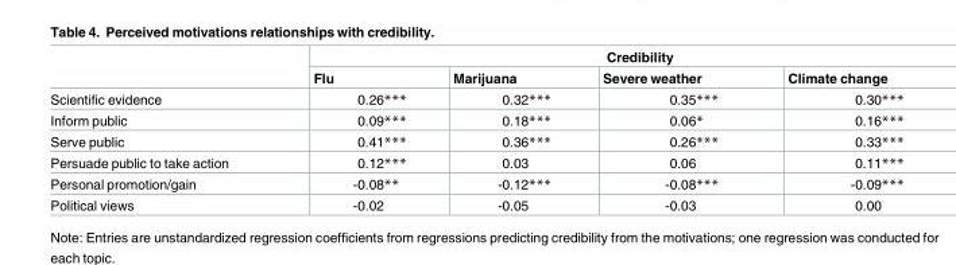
<table><thead><tr><td rowspan="2"></td><td colspan="4">Credibility</td></tr><tr><td>Flu</td><td>Marijuana</td><td>Severe weather</td><td>Climate change</td></tr></thead><tbody><tr><td>Scientific evidence</td><td>0.26***</td><td>0.32***</td><td>0.35***</td><td>0.30***</td></tr><tr><td>Inform public</td><td>0.09***</td><td>0.18***</td><td>0.06*</td><td>0.16***</td></tr><tr><td>Serve public</td><td>0.41***</td><td>0.36***</td><td>0.26***</td><td>0.33***</td></tr><tr><td>Persuade public to take action</td><td>0.12***</td><td>0.03</td><td>0.06</td><td>0.11***</td></tr><tr><td>Personal promotion/gain</td><td>-0.08**</td><td>-0.12***</td><td>-0.08***</td><td>-0.09***</td></tr><tr><td>Political views</td><td>-0.02</td><td>-0.05</td><td>-0.03</td><td>0.00</td></tr></tbody></table>